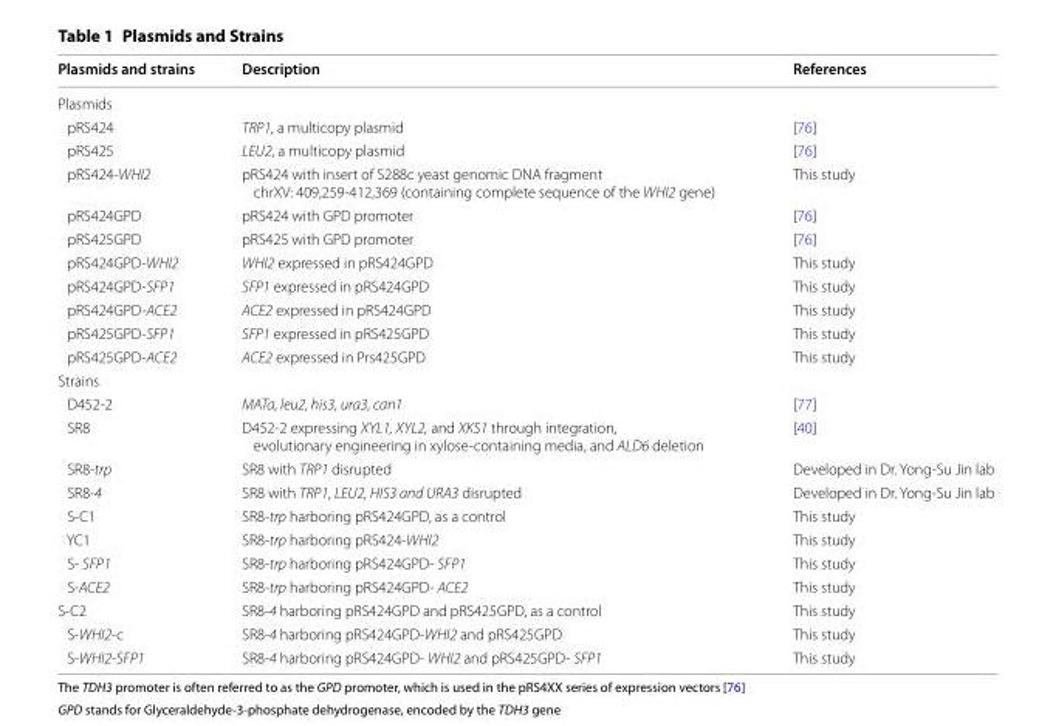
<table><thead><tr><td>Plasmids and strains</td><td>Description</td><td>References</td></tr></thead><tbody><tr><td colspan="3">Plasmids</td></tr><tr><td>pRS424</td><td>TRP1, a multicopy plasmid</td><td>[76]</td></tr><tr><td>pRS425</td><td>LEU2, a multicopy plasmid</td><td>[76]</td></tr><tr><td>pRS424-WHI2</td><td>pRS424 with insert of S288c yeast genomic DNA fragment chrXV: 409,259-412,369 (containing complete sequence of the WHI2 gene)</td><td>This study</td></tr><tr><td>pRS424GPD</td><td>pRS424 with GPD promoter</td><td>[76]</td></tr><tr><td>pRS425GPD</td><td>pRS425 with GPD promoter</td><td>[76]</td></tr><tr><td>pRS424GPD-WHI2</td><td>WHI2 expressed in pRS424GPD</td><td>This study</td></tr><tr><td>pRS424GPD-SFP1</td><td>SFP1 expressed in pRS424GPD</td><td>This study</td></tr><tr><td>pRS424GPD-ACE2</td><td>ACE2 expressed in pRS424GPD</td><td>This study</td></tr><tr><td>pRS425GPD-SFP1</td><td>SFP1 expressed in pRS425GPD</td><td>This study</td></tr><tr><td>pRS425GPD-ACE2</td><td>ACE2 expressed in Prs425GPD</td><td>This study</td></tr><tr><td colspan="3">Strains</td></tr><tr><td>D452-2</td><td>MATa, leu2, his3, ura3, can1</td><td>[77]</td></tr><tr><td>SR8</td><td>D452-2 expressing XYL1, XYL2, and XKS1 through integration, evolutionary engineering in xylose-containing media, and ALD6 deletion</td><td>[40]</td></tr><tr><td>SR8-trp</td><td>SR8 with TRP1 disrupted</td><td>Developed in Dr. Yong-Su Jin lab</td></tr><tr><td>SR8-4</td><td>SR8 with TRP1, LEU2, HIS3 and URA3 disrupted</td><td>Developed in Dr. Yong-Su Jin lab</td></tr><tr><td>S-C1</td><td>SR8-trp harboring pRS424GPD, as a control</td><td>This study</td></tr><tr><td>YC1</td><td>SR8-trp harboring pRS424-WHI2</td><td>This study</td></tr><tr><td>S- SFP1</td><td>SR8-trp harboring pRS424GPD- SFP1</td><td>This study</td></tr><tr><td>S-ACE2</td><td>SR8-trp harboring pRS424GPD- ACE2</td><td>This study</td></tr><tr><td>S-C2</td><td>SR8-4 harboring pRS424GPD and pRS425GPD, as a control</td><td>This study</td></tr><tr><td>S-WHI2-c</td><td>SR8-4 harboring pRS424GPD-WHI2 and pRS425GPD</td><td>This study</td></tr><tr><td>S-WHI2-SFP1</td><td>SR8-4 harboring pRS424GPD- WHI2 and pRS425GPD- SFP1</td><td>This study</td></tr></tbody></table>